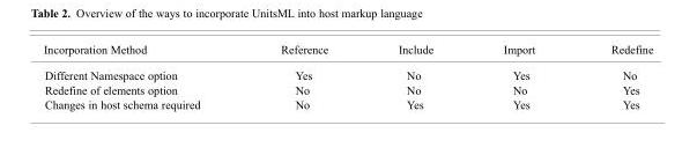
<table><thead><tr><td>Incorporation Method</td><td>Reference</td><td>Include</td><td>Import</td><td>Redefine</td></tr></thead><tbody><tr><td>Different Namespace option</td><td>Yes</td><td>No</td><td>Yes</td><td>No</td></tr><tr><td>Redefine of elements option</td><td>No</td><td>No</td><td>No</td><td>Yes</td></tr><tr><td>Changes in host schema required</td><td>No</td><td>Yes</td><td>Yes</td><td>Yes</td></tr></tbody></table>